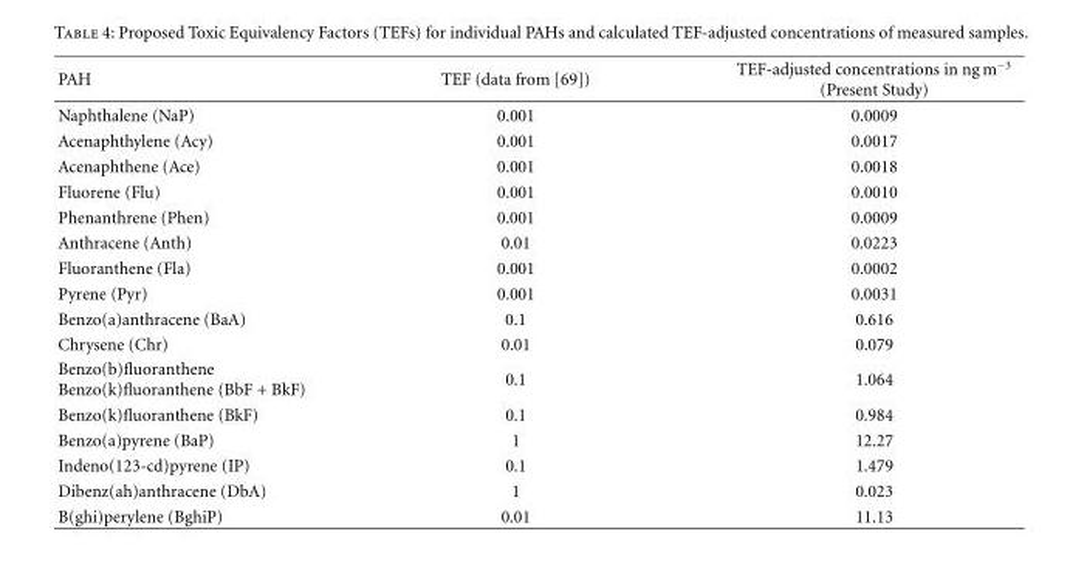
<table><thead><tr><td>PAH</td><td>TEF (data from [69])</td><td>TEF-adjusted concentrations in ng m<sup>−3</sup> (Present Study)</td></tr></thead><tbody><tr><td>Naphthalene (NaP)</td><td>0.001</td><td>0.0009</td></tr><tr><td>Acenaphthylene (Acy)</td><td>0.001</td><td>0.0017</td></tr><tr><td>Acenaphthene (Ace)</td><td>0.001</td><td>0.0018</td></tr><tr><td>Fluorene (Flu)</td><td>0.001</td><td>0.0010</td></tr><tr><td>Phenanthrene (Phen)</td><td>0.001</td><td>0.0009</td></tr><tr><td>Anthracene (Anth)</td><td>0.01</td><td>0.0223</td></tr><tr><td>Fluoranthene (Fla)</td><td>0.001</td><td>0.0002</td></tr><tr><td>Pyrene (Pyr)</td><td>0.001</td><td>0.0031</td></tr><tr><td>Benzo(a)anthracene (BaA)</td><td>0.1</td><td>0.616</td></tr><tr><td>Chrysene (Chr)</td><td>0.01</td><td>0.079</td></tr><tr><td>Benzo(b)fluoranthene Benzo(k)fluoranthene (BbF + BkF)</td><td>0.1</td><td>1.064</td></tr><tr><td>Benzo(k)fluoranthene (BkF)</td><td>0.1</td><td>0.984</td></tr><tr><td>Benzo(a)pyrene (BaP)</td><td>1</td><td>12.27</td></tr><tr><td>Indeno(123-cd)pyrene (IP)</td><td>0.1</td><td>1.479</td></tr><tr><td>Dibenz(ah)anthracene (DbA)</td><td>1</td><td>0.023</td></tr><tr><td>B(ghi)perylene (BghiP)</td><td>0.01</td><td>11.13</td></tr></tbody></table>